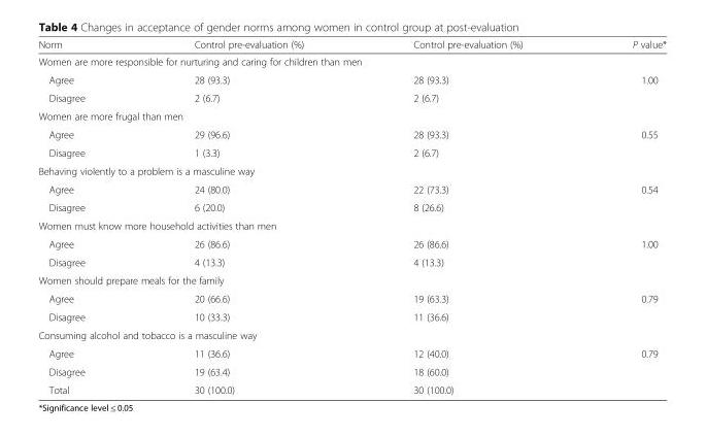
<table><thead><tr><td>Norm</td><td>Control pre-evaluation (%)</td><td>Control pre-evaluation (%)</td><td>P value*</td></tr></thead><tbody><tr><td colspan="4">Women are more responsible for nurturing and caring for children than men</td></tr><tr><td>Agree</td><td>28 (93.3)</td><td>28 (93.3)</td><td rowspan="2">1.00</td></tr><tr><td>Disagree</td><td>2 (6.7)</td><td>2 (6.7)</td></tr><tr><td colspan="4">Women are more frugal than men</td></tr><tr><td>Agree</td><td>29 (96.6)</td><td>28 (93.3)</td><td rowspan="2">0.55</td></tr><tr><td>Disagree</td><td>1 (3.3)</td><td>2 (6.7)</td></tr><tr><td colspan="4">Behaving violently to a problem is a masculine way</td></tr><tr><td>Agree</td><td>24 (80.0)</td><td>22 (73.3)</td><td rowspan="2">0.54</td></tr><tr><td>Disagree</td><td>6 (20.0)</td><td>8 (26.6)</td></tr><tr><td colspan="4">Women must know more household activities than men</td></tr><tr><td>Agree</td><td>26 (86.6)</td><td>26 (86.6)</td><td rowspan="2">1.00</td></tr><tr><td>Disagree</td><td>4 (13.3)</td><td>4 (13.3)</td></tr><tr><td colspan="4">Women should prepare meals for the family</td></tr><tr><td>Agree</td><td>20 (66.6)</td><td>19 (63.3)</td><td rowspan="2">0.79</td></tr><tr><td>Disagree</td><td>10 (33.3)</td><td>11 (36.6)</td></tr><tr><td colspan="4">Consuming alcohol and tobacco is a masculine way</td></tr><tr><td>Agree</td><td>11 (36.6)</td><td>12 (40.0)</td><td rowspan="2">0.79</td></tr><tr><td>Disagree</td><td>19 (63.4)</td><td>18 (60.0)</td></tr><tr><td>Total</td><td>30 (100.0)</td><td>30 (100.0)</td><td></td></tr></tbody></table>